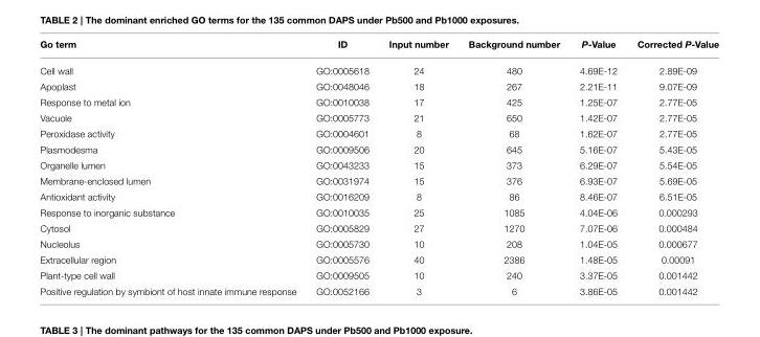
<table><thead><tr><td>Go term</td><td>ID</td><td>Input number</td><td>Background number</td><td>P-Value</td><td>Corrected P-Value</td></tr></thead><tbody><tr><td>Cell wall</td><td>GO:0005618</td><td>24</td><td>480</td><td>4.69E-12</td><td>2.89E-09</td></tr><tr><td>Apoplast</td><td>GO:0048046</td><td>18</td><td>267</td><td>2.21E-11</td><td>9.07E-09</td></tr><tr><td>Response to metal ion</td><td>GO:0010038</td><td>17</td><td>425</td><td>1.25E-07</td><td>2.77E-05</td></tr><tr><td>Vacuole</td><td>GO:0005773</td><td>21</td><td>650</td><td>1.42E-07</td><td>2.77E-05</td></tr><tr><td>Peroxidase activity</td><td>GO:0004601</td><td>8</td><td>68</td><td>1.62E-07</td><td>2.77E-05</td></tr><tr><td>Plasmodesma</td><td>GO:0009506</td><td>20</td><td>645</td><td>5.16E-07</td><td>5.43E-05</td></tr><tr><td>Organelle lumen</td><td>GO:0043233</td><td>15</td><td>373</td><td>6.29E-07</td><td>5.54E-05</td></tr><tr><td>Membrane-enclosed lumen</td><td>GO:0031974</td><td>15</td><td>376</td><td>6.93E-07</td><td>5.69E-05</td></tr><tr><td>Antioxidant activity</td><td>GO:0016209</td><td>8</td><td>86</td><td>8.46E-07</td><td>6.51E-05</td></tr><tr><td>Response to inorganic substance</td><td>GO:0010035</td><td>25</td><td>1085</td><td>4.04E-06</td><td>0.000293</td></tr><tr><td>Cytosol</td><td>GO:0005829</td><td>27</td><td>1270</td><td>7.07E-06</td><td>0.000484</td></tr><tr><td>Nucleolus</td><td>GO:0005730</td><td>10</td><td>208</td><td>1.04E-05</td><td>0.000677</td></tr><tr><td>Extracellular region</td><td>GO:0005576</td><td>40</td><td>2386</td><td>1.48E-05</td><td>0.00091</td></tr><tr><td>Plant-type cell wall</td><td>GO:0009505</td><td>10</td><td>240</td><td>3.37E-05</td><td>0.001442</td></tr><tr><td>Positive regulation by symbiont of host innate immune response</td><td>GO:0052166</td><td>3</td><td>6</td><td>3.86E-05</td><td>0.001442</td></tr></tbody></table>